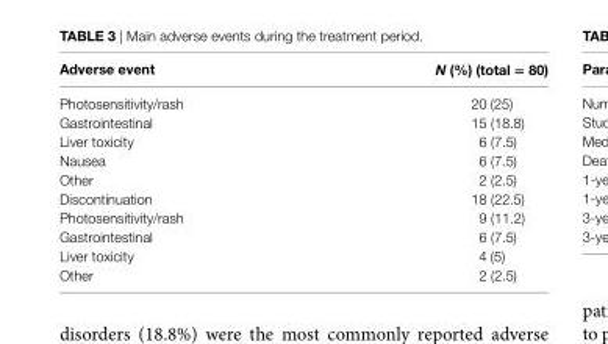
<table><thead><tr><td>adverse event</td><td>N (%) (total = 80)</td></tr></thead><tbody><tr><td>Photosensitivity/rash</td><td>20 (25)</td></tr><tr><td>Gastrointestinal</td><td>15 (18.8)</td></tr><tr><td>Liver toxicity</td><td>6 (7.5)</td></tr><tr><td>Nausea</td><td>6 (7.5)</td></tr><tr><td>Other</td><td>2 (2.5)</td></tr><tr><td>Discontinuation</td><td>18 (22.5)</td></tr><tr><td>Photosensitivity/rash</td><td>9 (11.2)</td></tr><tr><td>Gastrointestinal</td><td>6 (7.5)</td></tr><tr><td>Liver toxicity</td><td>4 (5)</td></tr><tr><td>Other</td><td>2 (2.5)</td></tr></tbody></table>